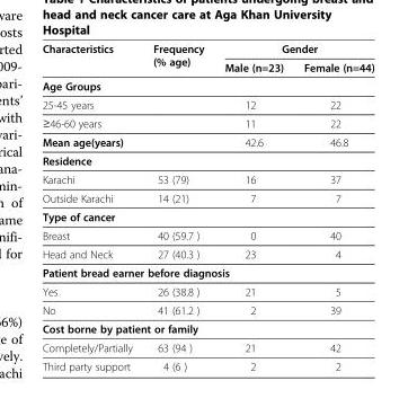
<table><thead><tr><td rowspan="2">Characteristics</td><td rowspan="2">Frequency (% age)</td><td colspan="2">Gender</td></tr><tr><td>Male (n=23)</td><td>Female (n=44)</td></tr></thead><tbody><tr><td colspan="4">Age Groups</td></tr><tr><td>25-45 years</td><td></td><td>12</td><td>22</td></tr><tr><td>≥46-60 years</td><td></td><td>11</td><td>22</td></tr><tr><td>Mean age(years)</td><td></td><td>42.6</td><td>46.8</td></tr><tr><td colspan="4">Residence</td></tr><tr><td>Karachi</td><td>53 (79)</td><td>16</td><td>37</td></tr><tr><td>Outside Karachi</td><td>14 (21)</td><td>7</td><td>7</td></tr><tr><td colspan="4">Type of cancer</td></tr><tr><td>Breast</td><td>40 (59.7 )</td><td>0</td><td>40</td></tr><tr><td>Head and Neck</td><td>27 (40.3 )</td><td>23</td><td>4</td></tr><tr><td colspan="4">Patient bread earner before diagnosis</td></tr><tr><td>Yes</td><td>26 (38.8 )</td><td>21</td><td>5</td></tr><tr><td>No</td><td>41 (61.2 )</td><td>2</td><td>39</td></tr><tr><td colspan="4">Cost borne by patient or family</td></tr><tr><td>Completely/Partially</td><td>63 (94 )</td><td>21</td><td>42</td></tr><tr><td>Third party support</td><td>4 (6 )</td><td>2</td><td>2</td></tr></tbody></table>